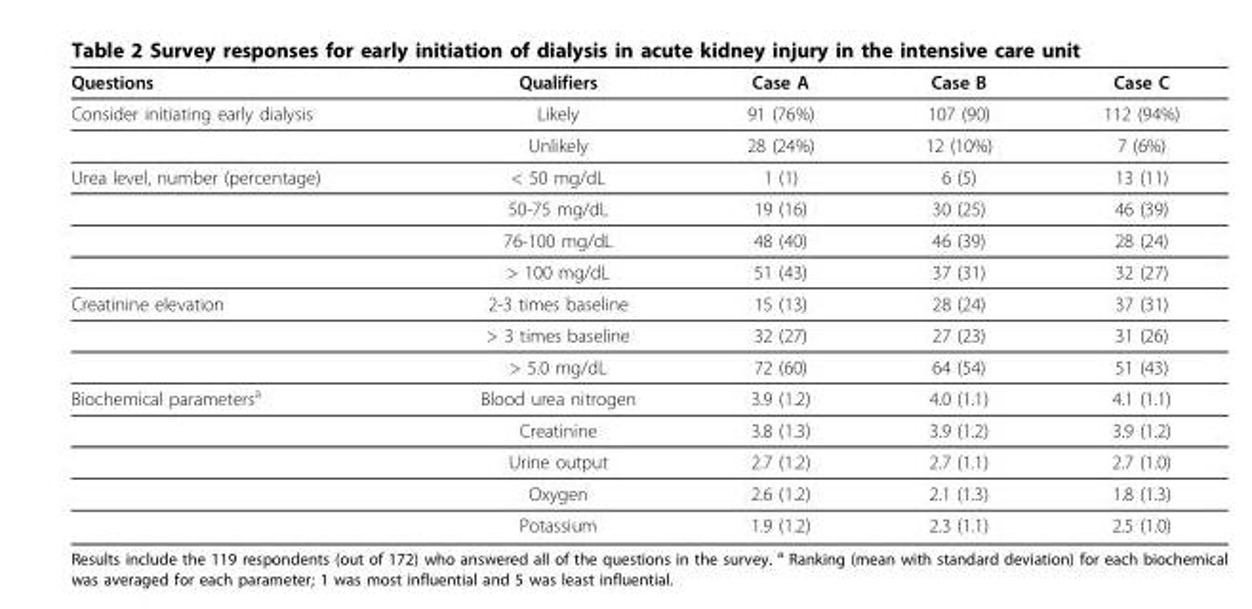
<table><thead><tr><td>Questions</td><td>Qualifiers</td><td>Case A</td><td>Case B</td><td>Case C</td></tr></thead><tbody><tr><td rowspan="2">Consider initiating early dialysis</td><td>Likely</td><td>91 (76%)</td><td>107 (90)</td><td>112 (94%)</td></tr><tr><td>Unlikely</td><td>28 (24%)</td><td>12 (10%)</td><td>7 (6%)</td></tr><tr><td rowspan="4">Urea level, number (percentage)</td><td>&lt; 50 mg/dL</td><td>1 (1)</td><td>6 (5)</td><td>13 (11)</td></tr><tr><td>50-75 mg/dL</td><td>19 (16)</td><td>30 (25)</td><td>46 (39)</td></tr><tr><td>76-100 mg/dL</td><td>48 (40)</td><td>46 (39)</td><td>28 (24)</td></tr><tr><td>&gt; 100 mg/dL</td><td>51 (43)</td><td>37 (31)</td><td>32 (27)</td></tr><tr><td rowspan="3">Creatinine elevation</td><td>2-3 times baseline</td><td>15 (13)</td><td>28 (24)</td><td>37 (31)</td></tr><tr><td>&gt; 3 times baseline</td><td>32 (27)</td><td>27 (23)</td><td>31 (26)</td></tr><tr><td>&gt; 5.0 mg/dL</td><td>72 (60)</td><td>64 (54)</td><td>51 (43)</td></tr><tr><td rowspan="5">Biochemical parameters<sup>a</sup></td><td>Blood urea nitrogen</td><td>3.9 (1.2)</td><td>4.0 (1.1)</td><td>4.1 (1.1)</td></tr><tr><td>Creatinine</td><td>3.8 (1.3)</td><td>3.9 (1.2)</td><td>3.9 (1.2)</td></tr><tr><td>Urine output</td><td>2.7 (1.2)</td><td>2.7 (1.1)</td><td>2.7 (1.0)</td></tr><tr><td>Oxygen</td><td>2.6 (1.2)</td><td>2.1 (1.3)</td><td>1.8 (1.3)</td></tr><tr><td>Potassium</td><td>1.9 (1.2)</td><td>2.3 (1.1)</td><td>2.5 (1.0)</td></tr></tbody></table>